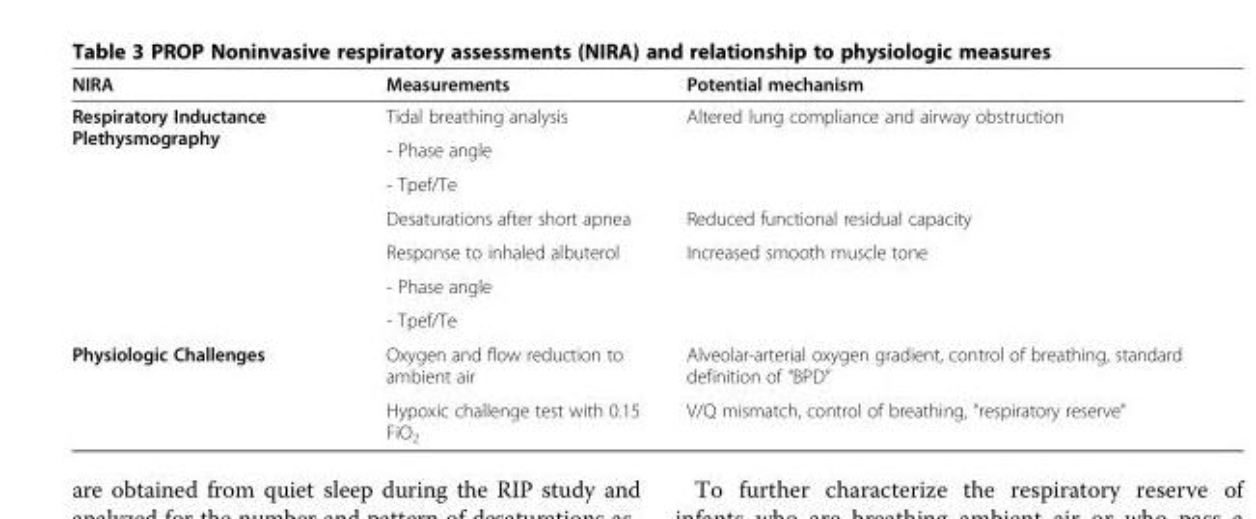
<table><thead><tr><td>NIRA</td><td>Measurements</td><td>Potential mechanism</td></tr></thead><tbody><tr><td rowspan="7">Respiratory Inductance Plethysmography</td><td>Tidal breathing analysis</td><td rowspan="3">Altered lung compliance and airway obstruction</td></tr><tr><td>- Phase angle</td></tr><tr><td>- Tpef/Te</td></tr><tr><td>Desaturations after short apnea</td><td>Reduced functional residual capacity</td></tr><tr><td>Response to inhaled albuterol</td><td rowspan="3">Increased smooth muscle tone</td></tr><tr><td>- Phase angle</td></tr><tr><td>- Tpef/Te</td></tr><tr><td rowspan="2">Physiologic Challenges</td><td>Oxygen and flow reduction to ambient air</td><td>Alveolar-arterial oxygen gradient, control of breathing, standard definition of “BPD”</td></tr><tr><td>Hypoxic challenge test with 0.15 FiO<sub>2</sub></td><td>V/Q mismatch, control of breathing, “respiratory reserve”</td></tr></tbody></table>